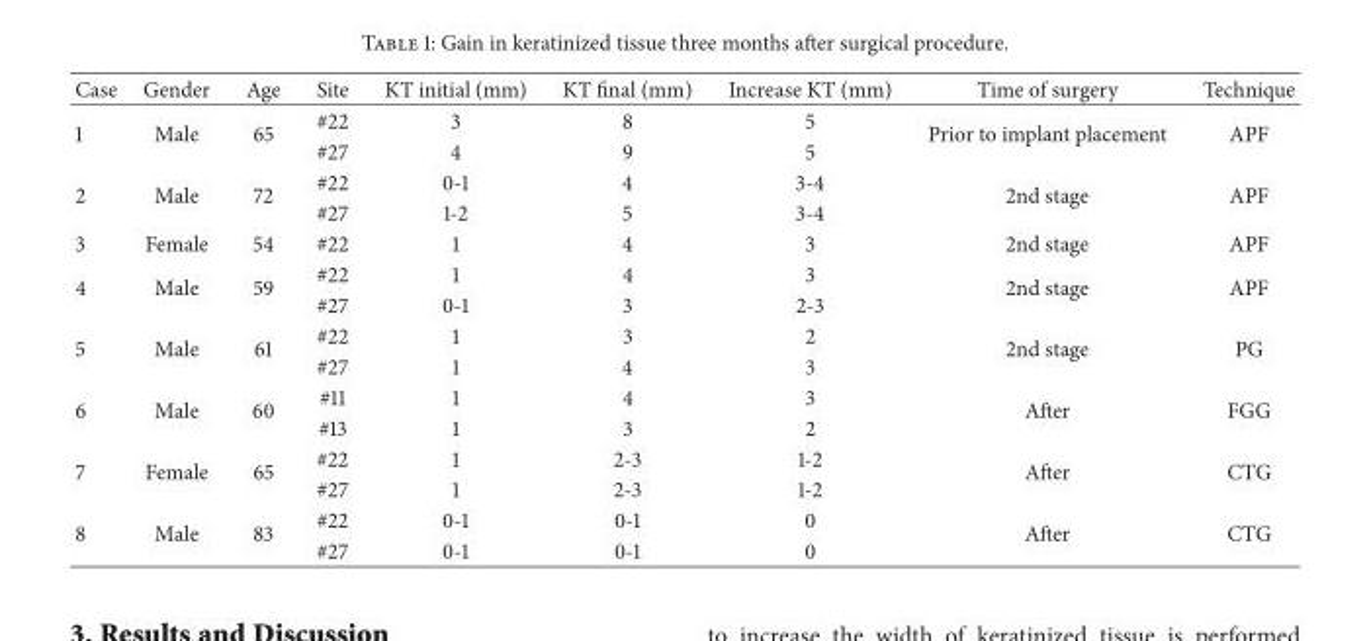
<table><thead><tr><td>Case</td><td>Gender</td><td>Age</td><td>Site</td><td>KT initial (mm)</td><td>KT final (mm)</td><td>Increase KT (mm)</td><td>Time of surgery</td><td>Technique</td></tr></thead><tbody><tr><td rowspan="2">1</td><td rowspan="2">Male</td><td rowspan="2">65</td><td>#22</td><td>3</td><td>8</td><td>5</td><td rowspan="2">Prior to implant placement</td><td rowspan="2">APF</td></tr><tr><td>#27</td><td>4</td><td>9</td><td>5</td></tr><tr><td rowspan="2">2</td><td rowspan="2">Male</td><td rowspan="2">72</td><td>#22</td><td>0-1</td><td>4</td><td>3-4</td><td rowspan="2">2nd stage</td><td rowspan="2">APF</td></tr><tr><td>#27</td><td>1-2</td><td>5</td><td>3-4</td></tr><tr><td>3</td><td>Female</td><td>54</td><td>#22</td><td>1</td><td>4</td><td>3</td><td>2nd stage</td><td>APF</td></tr><tr><td rowspan="2">4</td><td rowspan="2">Male</td><td rowspan="2">59</td><td>#22</td><td>1</td><td>4</td><td>3</td><td rowspan="2">2nd stage</td><td rowspan="2">APF</td></tr><tr><td>#27</td><td>0-1</td><td>3</td><td>2-3</td></tr><tr><td rowspan="2">5</td><td rowspan="2">Male</td><td rowspan="2">61</td><td>#22</td><td>1</td><td>3</td><td>2</td><td rowspan="2">2nd stage</td><td rowspan="2">PG</td></tr><tr><td>#27</td><td>1</td><td>4</td><td>3</td></tr><tr><td rowspan="2">6</td><td rowspan="2">Male</td><td rowspan="2">60</td><td>#11</td><td>1</td><td>4</td><td>3</td><td rowspan="2">After</td><td rowspan="2">FGG</td></tr><tr><td>#13</td><td>1</td><td>3</td><td>2</td></tr><tr><td rowspan="2">7</td><td rowspan="2">Female</td><td rowspan="2">65</td><td>#22</td><td>1</td><td>2-3</td><td>1-2</td><td rowspan="2">After</td><td rowspan="2">CTG</td></tr><tr><td>#27</td><td>1</td><td>2-3</td><td>1-2</td></tr><tr><td rowspan="2">8</td><td rowspan="2">Male</td><td rowspan="2">83</td><td>#22</td><td>0-1</td><td>0-1</td><td>0</td><td rowspan="2">After</td><td rowspan="2">CTG</td></tr><tr><td>#27</td><td>0-1</td><td>0-1</td><td>0</td></tr></tbody></table>